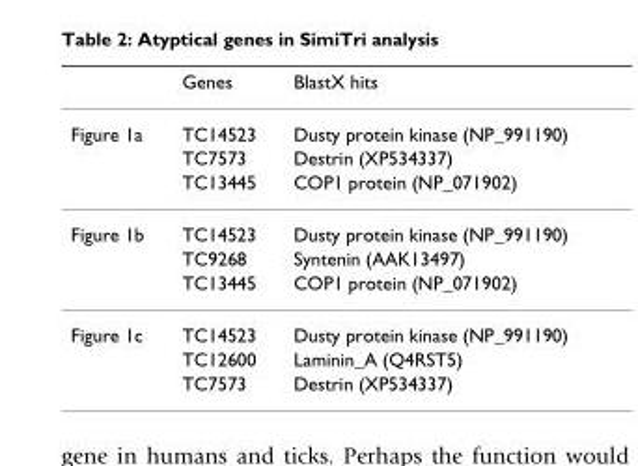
<table><thead><tr><td></td><td>Genes</td><td>BlastX hits</td></tr></thead><tbody><tr><td rowspan="3">Figure 1a</td><td>TC14523</td><td>Dusty protein kinase (NP_991190)</td></tr><tr><td>TC7573</td><td>Destrin (XP534337)</td></tr><tr><td>TC13445</td><td>COP1 protein (NP_071902)</td></tr><tr><td rowspan="3">Figure 1b</td><td>TC14523</td><td>Dusty protein kinase (NP_991190)</td></tr><tr><td>TC9268</td><td>Syntenin (AAK13497)</td></tr><tr><td>TC13445</td><td>COP1 protein (NP_071902)</td></tr><tr><td rowspan="3">Figure 1c</td><td>TC14523</td><td>Dusty protein kinase (NP_991190)</td></tr><tr><td>TC12600</td><td>Laminin_A (Q4RST5)</td></tr><tr><td>TC7573</td><td>Destrin (XP534337)</td></tr></tbody></table>